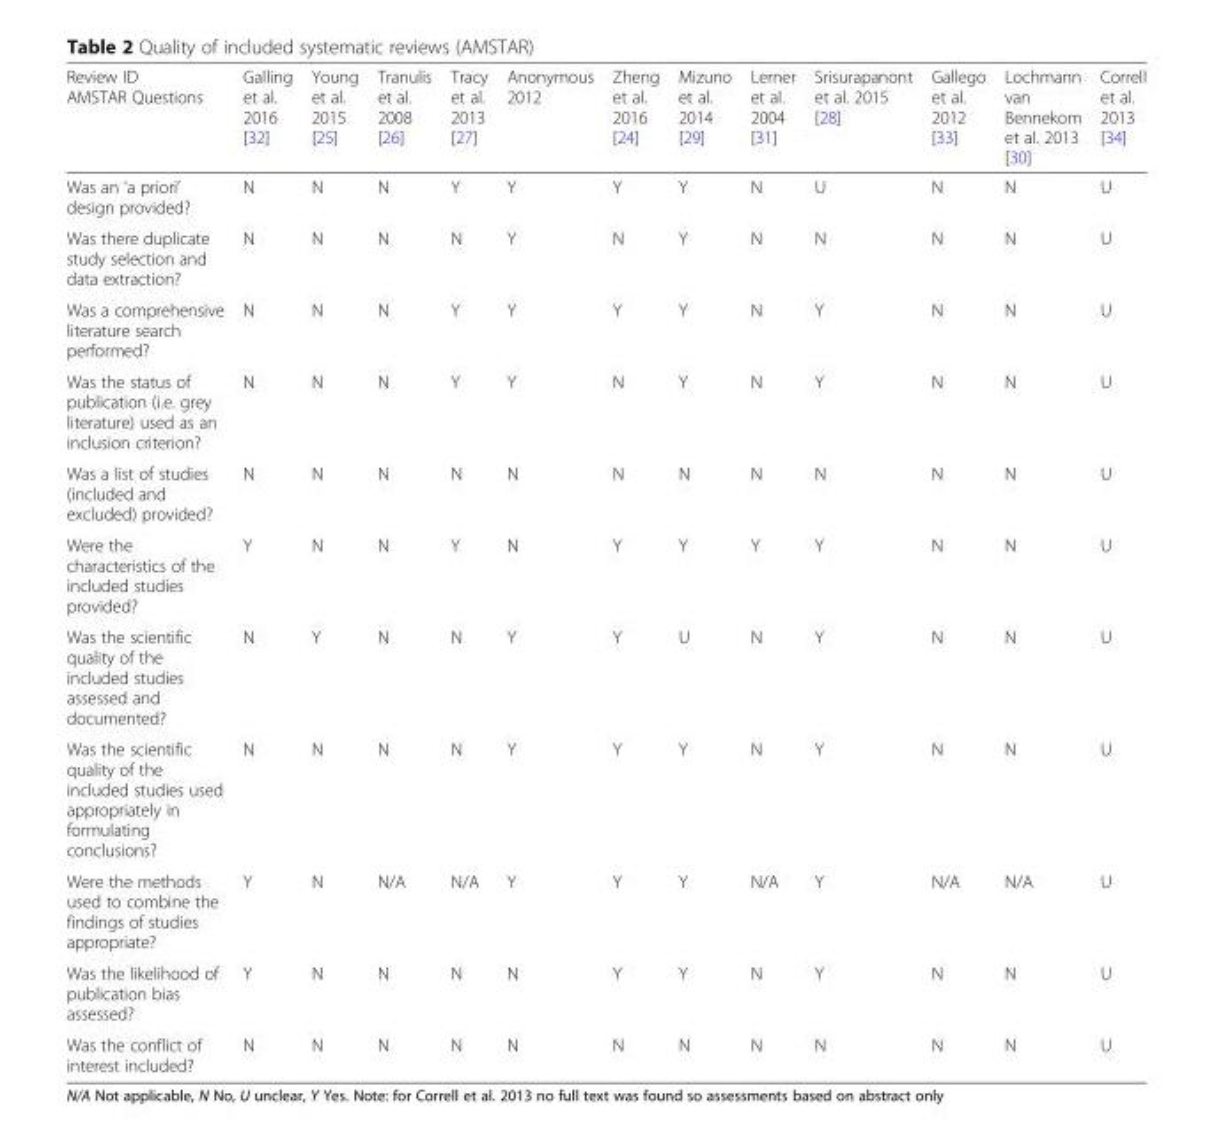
<table><thead><tr><td>Review ID AMSTAR Questions</td><td>Galling et al. 2016 [32]</td><td>Young et al. 2015 [25]</td><td>Tranulis et al. 2008 [26]</td><td>Tracy et al. 2013 [27]</td><td>Anonymous 2012</td><td>Zheng et al. 2016 [24]</td><td>Mizuno et al. 2014 [29]</td><td>Lerner et al. 2004 [31]</td><td>Srisurapanont et al. 2015 [28]</td><td>Gallego et al. 2012 [33]</td><td>Lochmann van Bennekom et al. 2013 [30]</td><td>Correll et al. 2013 [34]</td></tr></thead><tbody><tr><td>Was an ‘a priori’ design provided?</td><td>N</td><td>N</td><td>N</td><td>Y</td><td>Y</td><td>Y</td><td>Y</td><td>N</td><td>U</td><td>N</td><td>N</td><td>U</td></tr><tr><td>Was there duplicate study selection and data extraction?</td><td>N</td><td>N</td><td>N</td><td>N</td><td>Y</td><td>N</td><td>Y</td><td>N</td><td>N</td><td>N</td><td>N</td><td>U</td></tr><tr><td>Was a comprehensive literature search performed?</td><td>N</td><td>N</td><td>N</td><td>Y</td><td>Y</td><td>Y</td><td>Y</td><td>N</td><td>Y</td><td>N</td><td>N</td><td>U</td></tr><tr><td>Was the status of publication (i.e. grey literature) used as an inclusion criterion?</td><td>N</td><td>N</td><td>N</td><td>Y</td><td>Y</td><td>N</td><td>Y</td><td>N</td><td>Y</td><td>N</td><td>N</td><td>U</td></tr><tr><td>Was a list of studies (included and excluded) provided?</td><td>N</td><td>N</td><td>N</td><td>N</td><td>N</td><td>N</td><td>N</td><td>N</td><td>N</td><td>N</td><td>N</td><td>U</td></tr><tr><td>Were the characteristics of the included studies provided?</td><td>Y</td><td>N</td><td>N</td><td>Y</td><td>N</td><td>Y</td><td>Y</td><td>Y</td><td>Y</td><td>N</td><td>N</td><td>U</td></tr><tr><td>Was the scientific quality of the included studies assessed and documented?</td><td>N</td><td>Y</td><td>N</td><td>N</td><td>Y</td><td>Y</td><td>U</td><td>N</td><td>Y</td><td>N</td><td>N</td><td>U</td></tr><tr><td>Was the scientific quality of the included studies used appropriately in formulating conclusions?</td><td>N</td><td>N</td><td>N</td><td>N</td><td>Y</td><td>Y</td><td>Y</td><td>N</td><td>Y</td><td>N</td><td>N</td><td>U</td></tr><tr><td>Were the methods used to combine the findings of studies appropriate?</td><td>Y</td><td>N</td><td>N/A</td><td>N/A</td><td>Y</td><td>Y</td><td>Y</td><td>N/A</td><td>Y</td><td>N/A</td><td>N/A</td><td>U</td></tr><tr><td>Was the likelihood of publication bias assessed?</td><td>Y</td><td>N</td><td>N</td><td>N</td><td>N</td><td>Y</td><td>Y</td><td>N</td><td>Y</td><td>N</td><td>N</td><td>U</td></tr><tr><td>Was the conflict of interest included?</td><td>N</td><td>N</td><td>N</td><td>N</td><td>N</td><td>N</td><td>N</td><td>N</td><td>N</td><td>N</td><td>N</td><td>U</td></tr></tbody></table>